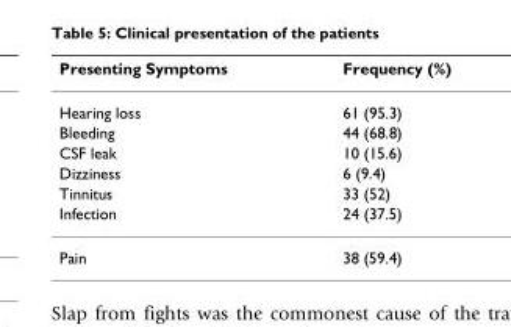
<table><thead><tr><td>Presenting Symptoms</td><td>Frequency (%)</td></tr></thead><tbody><tr><td>Hearing loss</td><td>61 (95.3)</td></tr><tr><td>Bleeding</td><td>44 (68.8)</td></tr><tr><td>CSF leak</td><td>10 (15.6)</td></tr><tr><td>Dizziness</td><td>6 (9.4)</td></tr><tr><td>Tinnitus</td><td>33 (52)</td></tr><tr><td>Infection</td><td>24 (37.5)</td></tr><tr><td>Pain</td><td>38 (59.4)</td></tr></tbody></table>